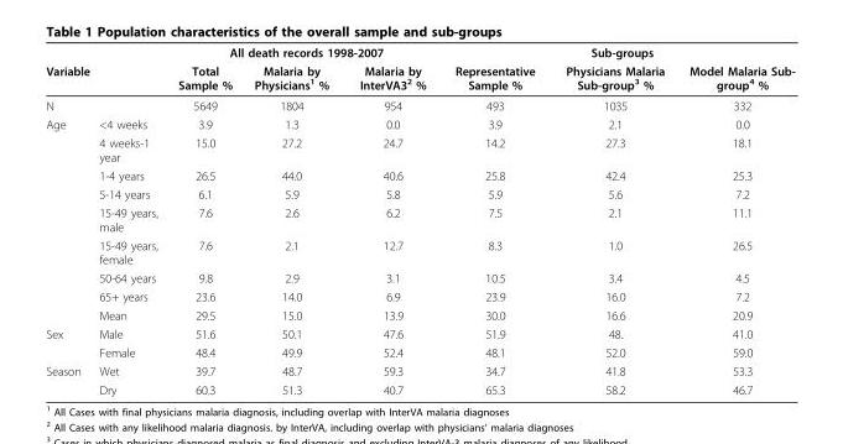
<table><thead><tr><td rowspan="2">Variable</td><td rowspan="2"></td><td colspan="3">All death records 1998-2007</td><td colspan="3">Sub-groups</td></tr><tr><td>Total Sample %</td><td>Malaria by Physicians<sup>1</sup> %</td><td>Malaria by InterVA3<sup>2</sup> %</td><td>Representative Sample %</td><td>Physicians Malaria Sub-group<sup>3</sup> %</td><td>Model Malaria Sub- group<sup>4</sup> %</td></tr></thead><tbody><tr><td>N</td><td></td><td>5649</td><td>1804</td><td>954</td><td>493</td><td>1035</td><td>332</td></tr><tr><td rowspan="9">Age</td><td>&lt;4 weeks</td><td>3.9</td><td>1.3</td><td>0.0</td><td>3.9</td><td>2.1</td><td>0.0</td></tr><tr><td>4 weeks-1 year</td><td>15.0</td><td>27.2</td><td>24.7</td><td>14.2</td><td>27.3</td><td>18.1</td></tr><tr><td>1-4 years</td><td>26.5</td><td>44.0</td><td>40.6</td><td>25.8</td><td>42.4</td><td>25.3</td></tr><tr><td>5-14 years</td><td>6.1</td><td>5.9</td><td>5.8</td><td>5.9</td><td>5.6</td><td>7.2</td></tr><tr><td>15-49 years, male</td><td>7.6</td><td>2.6</td><td>6.2</td><td>7.5</td><td>2.1</td><td>11.1</td></tr><tr><td>15-49 years, female</td><td>7.6</td><td>2.1</td><td>12.7</td><td>8.3</td><td>1.0</td><td>26.5</td></tr><tr><td>50-64 years</td><td>9.8</td><td>2.9</td><td>3.1</td><td>10.5</td><td>3.4</td><td>4.5</td></tr><tr><td>65+ years</td><td>23.6</td><td>14.0</td><td>6.9</td><td>23.9</td><td>16.0</td><td>7.2</td></tr><tr><td>Mean</td><td>29.5</td><td>15.0</td><td>13.9</td><td>30.0</td><td>16.6</td><td>20.9</td></tr><tr><td rowspan="2">Sex</td><td>Male</td><td>51.6</td><td>50.1</td><td>47.6</td><td>51.9</td><td>48.</td><td>41.0</td></tr><tr><td>Female</td><td>48.4</td><td>49.9</td><td>52.4</td><td>48.1</td><td>52.0</td><td>59.0</td></tr><tr><td rowspan="2">Season</td><td>Wet</td><td>39.7</td><td>48.7</td><td>59.3</td><td>34.7</td><td>41.8</td><td>53.3</td></tr><tr><td>Dry</td><td>60.3</td><td>51.3</td><td>40.7</td><td>65.3</td><td>58.2</td><td>46.7</td></tr></tbody></table>